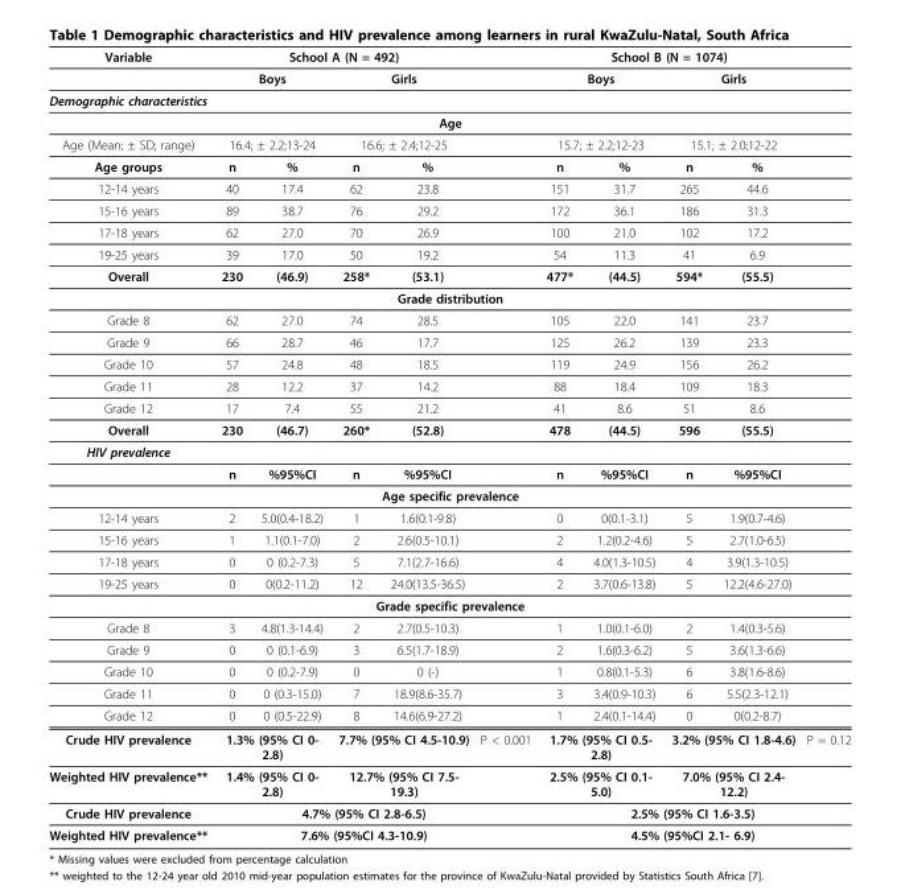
<table><thead><tr><td>Variable</td><td colspan="4">School A (N = 492)</td><td></td><td colspan="4">School B (N = 1074)</td><td></td></tr></thead><tbody><tr><td></td><td colspan="2">Boys</td><td colspan="2">Girls</td><td></td><td colspan="2">Boys</td><td colspan="2">Girls</td><td></td></tr><tr><td colspan="11">Demographic characteristics</td></tr><tr><td colspan="11">Age</td></tr><tr><td>Age (Mean; ± SD; range)</td><td colspan="2">16.4; ± 2.2;13-24</td><td colspan="2">16.6; ± 2.4;12-25</td><td></td><td colspan="2">15.7; ± 2.2;12-23</td><td colspan="2">15.1; ± 2.0;12-22</td><td></td></tr><tr><td>Age groups</td><td>n</td><td>%</td><td>n</td><td>%</td><td></td><td>n</td><td>%</td><td>n</td><td>%</td><td></td></tr><tr><td>12-14 years</td><td>40</td><td>17.4</td><td>62</td><td>23.8</td><td></td><td>151</td><td>31.7</td><td>265</td><td>44.6</td><td></td></tr><tr><td>15-16 years</td><td>89</td><td>38.7</td><td>76</td><td>29.2</td><td></td><td>172</td><td>36.1</td><td>186</td><td>31.3</td><td></td></tr><tr><td>17-18 years</td><td>62</td><td>27.0</td><td>70</td><td>26.9</td><td></td><td>100</td><td>21.0</td><td>102</td><td>17.2</td><td></td></tr><tr><td>19-25 years</td><td>39</td><td>17.0</td><td>50</td><td>19.2</td><td></td><td>54</td><td>11.3</td><td>41</td><td>6.9</td><td></td></tr><tr><td>Overall</td><td>230</td><td>(46.9)</td><td>258*</td><td>(53.1)</td><td></td><td>477*</td><td>(44.5)</td><td>594*</td><td>(55.5)</td><td></td></tr><tr><td colspan="11">Grade distribution</td></tr><tr><td>Grade 8</td><td>62</td><td>27.0</td><td>74</td><td>28.5</td><td></td><td>105</td><td>22.0</td><td>141</td><td>23.7</td><td></td></tr><tr><td>Grade 9</td><td>66</td><td>28.7</td><td>46</td><td>17.7</td><td></td><td>125</td><td>26.2</td><td>139</td><td>23.3</td><td></td></tr><tr><td>Grade 10</td><td>57</td><td>24.8</td><td>48</td><td>18.5</td><td></td><td>119</td><td>24.9</td><td>156</td><td>26.2</td><td></td></tr><tr><td>Grade 11</td><td>28</td><td>12.2</td><td>37</td><td>14.2</td><td></td><td>88</td><td>18.4</td><td>109</td><td>18.3</td><td></td></tr><tr><td>Grade 12</td><td>17</td><td>7.4</td><td>55</td><td>21.2</td><td></td><td>41</td><td>8.6</td><td>51</td><td>8.6</td><td></td></tr><tr><td>Overall</td><td>230</td><td>(46.7)</td><td>260*</td><td>(52.8)</td><td></td><td>478</td><td>(44.5)</td><td>596</td><td>(55.5)</td><td></td></tr><tr><td colspan="11">HIV prevalence</td></tr><tr><td></td><td>n</td><td>%95%CI</td><td>n</td><td>%95%CI</td><td></td><td>n</td><td>%95%CI</td><td>n</td><td>%95%CI</td><td></td></tr><tr><td colspan="11">Age specific prevalence</td></tr><tr><td>12-14 years</td><td>2</td><td>5.0(0.4-18.2)</td><td>1</td><td>1.6(0.1-9.8)</td><td></td><td>0</td><td>0(0.1-3.1)</td><td>5</td><td>1.9(0.7-4.6)</td><td></td></tr><tr><td>15-16 years</td><td>1</td><td>1.1(0.1-7.0)</td><td>2</td><td>2.6(0.5-10.1)</td><td></td><td>2</td><td>1.2(0.2-4.6)</td><td>5</td><td>2.7(1.0-6.5)</td><td></td></tr><tr><td>17-18 years</td><td>0</td><td>0 (0.2-7.3)</td><td>5</td><td>7.1(2.7-16.6)</td><td></td><td>4</td><td>4.0(1.3-10.5)</td><td>4</td><td>3.9(1.3-10.5)</td><td></td></tr><tr><td>19-25 years</td><td>0</td><td>0(0.2-11.2)</td><td>12</td><td>24.0(13.5-36.5)</td><td></td><td>2</td><td>3.7(0.6-13.8)</td><td>5</td><td>12.2(4.6-27.0)</td><td></td></tr><tr><td colspan="11">Grade specific prevalence</td></tr><tr><td>Grade 8</td><td>3</td><td>4.8(1.3-14.4)</td><td>2</td><td>2.7(0.5-10.3)</td><td></td><td>1</td><td>1.0(0.1-6.0)</td><td>2</td><td>1.4(0.3-5.6)</td><td></td></tr><tr><td>Grade 9</td><td>0</td><td>0 (0.1-6.9)</td><td>3</td><td>6.5(1.7-18.9)</td><td></td><td>2</td><td>1.6(0.3-6.2)</td><td>5</td><td>3.6(1.3-6.6)</td><td></td></tr><tr><td>Grade 10</td><td>0</td><td>0 (0.2-7.9)</td><td>0</td><td>0 (-)</td><td></td><td>1</td><td>0.8(0.1-5.3)</td><td>6</td><td>3.8(1.6-8.6)</td><td></td></tr><tr><td>Grade 11</td><td>0</td><td>0 (0.3-15.0)</td><td>7</td><td>18.9(8.6-35.7)</td><td></td><td>3</td><td>3.4(0.9-10.3)</td><td>6</td><td>5.5(2.3-12.1)</td><td></td></tr><tr><td>Grade 12</td><td>0</td><td>0 (0.5-22.9)</td><td>8</td><td>14.6(6.9-27.2)</td><td></td><td>1</td><td>2.4(0.1-14.4)</td><td>0</td><td>0(0.2-8.7)</td><td></td></tr><tr><td>Crude HIV prevalence</td><td colspan="2">1.3% (95% CI 0- 2.8)</td><td colspan="2">7.7% (95% CI 4.5-10.9)</td><td>P &lt; 0.001</td><td colspan="2">1.7% (95% CI 0.5- 2.8)</td><td colspan="2">3.2% (95% CI 1.8-4.6)</td><td>P = 0.12</td></tr><tr><td>Weighted HIV prevalence**</td><td colspan="2">1.4% (95% CI 0- 2.8)</td><td colspan="2">12.7% (95% CI 7.5- 19.3)</td><td></td><td colspan="2">2.5% (95% CI 0.1- 5.0)</td><td colspan="2">7.0% (95% CI 2.4- 12.2)</td><td></td></tr><tr><td>Crude HIV prevalence</td><td></td><td colspan="3">4.7% (95% CI 2.8-6.5)</td><td></td><td></td><td colspan="3">2.5% (95% CI 1.6-3.5)</td><td></td></tr><tr><td>Weighted HIV prevalence**</td><td></td><td colspan="3">7.6% (95%CI 4.3-10.9)</td><td></td><td></td><td colspan="3">4.5% (95%CI 2.1- 6.9)</td><td></td></tr></tbody></table>